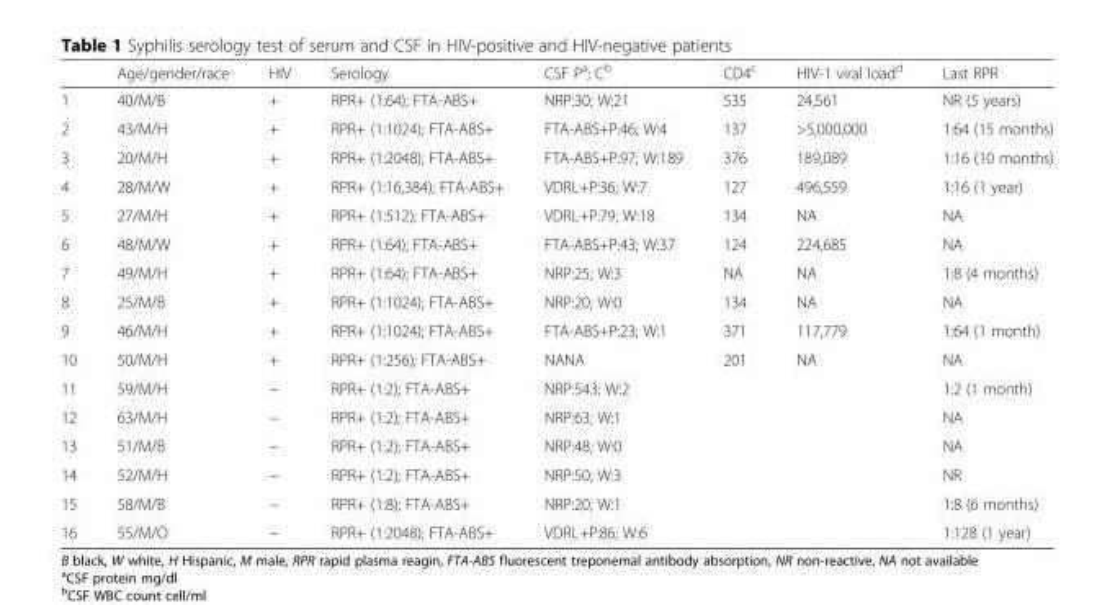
<table><thead><tr><td></td><td>Age/gender/race</td><td>HIV</td><td>Serology</td><td>CSF P<sup>a</sup>; C<sup>b</sup></td><td>CD4<sup>c</sup></td><td>HIV-1 viral load<sup>d</sup></td><td>Last RPR</td></tr></thead><tbody><tr><td>1</td><td>40/M/B</td><td>+</td><td>RPR+ (1:64); FTA-ABS+</td><td>NRP:30; W:21</td><td>535</td><td>24,561</td><td>NR (5 years)</td></tr><tr><td>2</td><td>43/M/H</td><td>+</td><td>RPR+ (1:1024); FTA-ABS+</td><td>FTA-ABS+P:46; W:4</td><td>137</td><td>&gt;5,000,000</td><td>1:64 (15 months)</td></tr><tr><td>3</td><td>20/M/H</td><td>+</td><td>RPR+ (1:2048); FTA-ABS+</td><td>FTA-ABS+P:97; W:189</td><td>376</td><td>189,089</td><td>1:16 (10 months)</td></tr><tr><td>4</td><td>28/M/W</td><td>+</td><td>RPR+ (1:16,384); FTA-ABS+</td><td>VDRL+P:36; W:7</td><td>127</td><td>496,559</td><td>1:16 (1 year)</td></tr><tr><td>5</td><td>27/M/H</td><td>+</td><td>RPR+ (1:512); FTA-ABS+</td><td>VDRL+P:79; W:18</td><td>134</td><td>NA</td><td>NA</td></tr><tr><td>6</td><td>48/M/W</td><td>+</td><td>RPR+ (1:64); FTA-ABS+</td><td>FTA-ABS+P:43; W:37</td><td>124</td><td>224,685</td><td>NA</td></tr><tr><td>7</td><td>49/M/H</td><td>+</td><td>RPR+ (1:64); FTA-ABS+</td><td>NRP:25; W:3</td><td>NA</td><td>NA</td><td>1:8 (4 months)</td></tr><tr><td>8</td><td>25/M/B</td><td>+</td><td>RPR+ (1:1024); FTA-ABS+</td><td>NRP:20; W:0</td><td>134</td><td>NA</td><td>NA</td></tr><tr><td>9</td><td>46/M/H</td><td>+</td><td>RPR+ (1:1024); FTA-ABS+</td><td>FTA-ABS+P:23; W:1</td><td>371</td><td>117,779</td><td>1:64 (1 month)</td></tr><tr><td>10</td><td>50/M/H</td><td>+</td><td>RPR+ (1:256); FTA-ABS+</td><td>NANA</td><td>201</td><td>NA</td><td>NA</td></tr><tr><td>11</td><td>59/M/H</td><td>−</td><td>RPR+ (1:2); FTA-ABS+</td><td>NRP:543; W:2</td><td></td><td></td><td>1:2 (1 month)</td></tr><tr><td>12</td><td>63/M/H</td><td>−</td><td>RPR+ (1:2); FTA-ABS+</td><td>NRP:63; W:1</td><td></td><td></td><td>NA</td></tr><tr><td>13</td><td>51/M/B</td><td>−</td><td>RPR+ (1:2); FTA-ABS+</td><td>NRP:48; W:0</td><td></td><td></td><td>NA</td></tr><tr><td>14</td><td>52/M/H</td><td>−</td><td>RPR+ (1:2); FTA-ABS+</td><td>NRP:50; W:3</td><td></td><td></td><td>NR</td></tr><tr><td>15</td><td>58/M/B</td><td>−</td><td>RPR+ (1:8); FTA-ABS+</td><td>NRP:20; W:1</td><td></td><td></td><td>1:8 (6 months)</td></tr><tr><td>16</td><td>55/M/O</td><td>−</td><td>RPR+ (1:2048); FTA-ABS+</td><td>VDRL+P:86; W:6</td><td></td><td></td><td>1:128 (1 year)</td></tr></tbody></table>